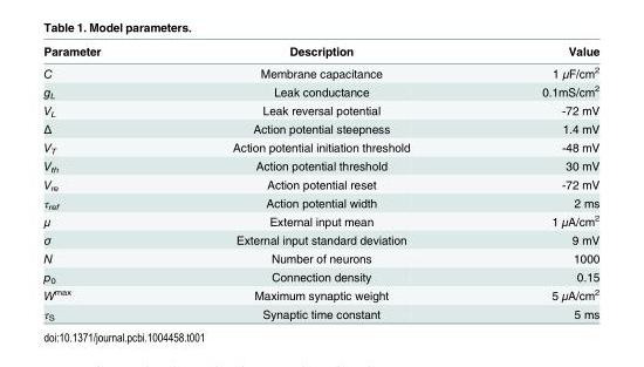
<table><thead><tr><td>Parameter</td><td>Description</td><td>Value</td></tr></thead><tbody><tr><td>C</td><td>Membrane capacitance</td><td>1 μF/cm<sup>2</sup></td></tr><tr><td>g<sub>L</sub></td><td>Leak conductance</td><td>0.1mS/cm<sup>2</sup></td></tr><tr><td>V<sub>L</sub></td><td>Leak reversal potential</td><td>-72 mV</td></tr><tr><td>Δ</td><td>Action potential steepness</td><td>1.4 mV</td></tr><tr><td>V<sub>T</sub></td><td>Action potential initiation threshold</td><td>-48 mV</td></tr><tr><td>V<sub>th</sub></td><td>Action potential threshold</td><td>30 mV</td></tr><tr><td>V<sub>re</sub></td><td>Action potential reset</td><td>-72 mV</td></tr><tr><td>τ<sub>ref</sub></td><td>Action potential width</td><td>2 ms</td></tr><tr><td>μ</td><td>External input mean</td><td>1 μA/cm<sup>2</sup></td></tr><tr><td>σ</td><td>External input standard deviation</td><td>9 mV</td></tr><tr><td>N</td><td>Number of neurons</td><td>1000</td></tr><tr><td>p<sub>0</sub></td><td>Connection density</td><td>0.15</td></tr><tr><td>W<sup>max</sup></td><td>Maximum synaptic weight</td><td>5 μA/cm<sup>2</sup></td></tr><tr><td>τ<sub>S</sub></td><td>Synaptic time constant</td><td>5 ms</td></tr></tbody></table>